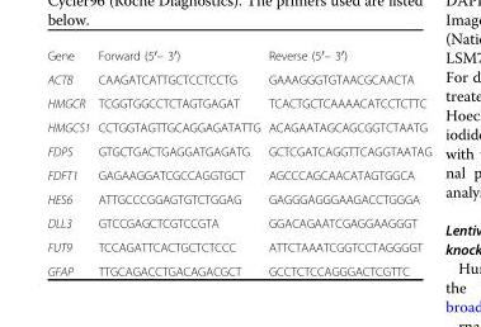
<table><tbody><tr><td>Gene</td><td>Forward (5′– 3′)</td><td>Reverse (5′– 3′)</td></tr><tr><td>ACTB</td><td>CAAGATCATTGCTCCTCCTG</td><td>GAAAGGGTGTAACGCAACTA</td></tr><tr><td>HMGCR</td><td>TCGGTGGCCTCTAGTGAGAT</td><td>TCACTGCTCAAAACATCCTCTTC</td></tr><tr><td>HMGCS1</td><td>CCTGGTAGTTGCAGGAGATATTG</td><td>ACAGAATAGCAGCGGTCTAATG</td></tr><tr><td>FDPS</td><td>GTGCTGACTGAGGATGAGATG</td><td>GCTCGATCAGGTTCAGGTAATAG</td></tr><tr><td>FDFT1</td><td>GAGAAGGATCGCCAGGTGCT</td><td>AGCCCAGCAACATAGTGGCA</td></tr><tr><td>HES6</td><td>ATTGCCCGGAGTGTCTGGAG</td><td>GAGGGAGGGAAGACCTGGGA</td></tr><tr><td>DLL3</td><td>GTCCGAGCTCGTCCGTA</td><td>GGACAGAATCGAGGAAGGGT</td></tr><tr><td>FUT9</td><td>TCCAGATTCACTGCTCTCCC</td><td>ATTCTAAATCGGTCCTAGGGGT</td></tr><tr><td>GFAP</td><td>TTGCAGACCTGACAGACGCT</td><td>GCCTCTCCAGGGACTCGTTC</td></tr></tbody></table>